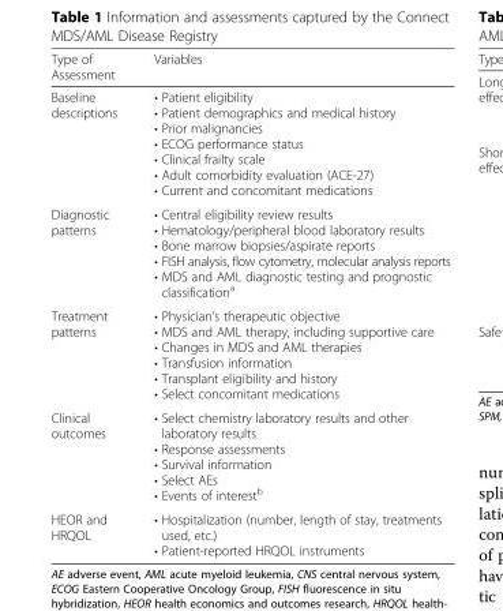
<table><thead><tr><td>Type of Assessment</td><td>Variables</td></tr></thead><tbody><tr><td>Baseline descriptions</td><td>• Patient eligibility • Patient demographics and medical history • Prior malignancies • ECOG performance status • Clinical frailty scale • Adult comorbidity evaluation (ACE-27) • Current and concomitant medications</td></tr><tr><td>Diagnostic patterns</td><td>• Central eligibility review results • Hematology/peripheral blood laboratory results • Bone marrow biopsies/aspirate reports • FISH analysis, flow cytometry, molecular analysis reports • MDS and AML diagnostic testing and prognostic classification<sup>a</sup></td></tr><tr><td>Treatment patterns</td><td>• Physician’s therapeutic objective • MDS and AML therapy, including supportive care • Changes in MDS and AML therapies • Transfusion information • Transplant eligibility and history • Select concomitant medications</td></tr><tr><td>Clinical outcomes</td><td>• Select chemistry laboratory results and other laboratory results • Response assessments • Survival information • Select AEs • Events of interest<sup>b</sup></td></tr><tr><td>HEOR and HRQOL</td><td>• Hospitalization (number, length of stay, treatments used, etc.) • Patient-reported HRQOL instruments</td></tr></tbody></table>